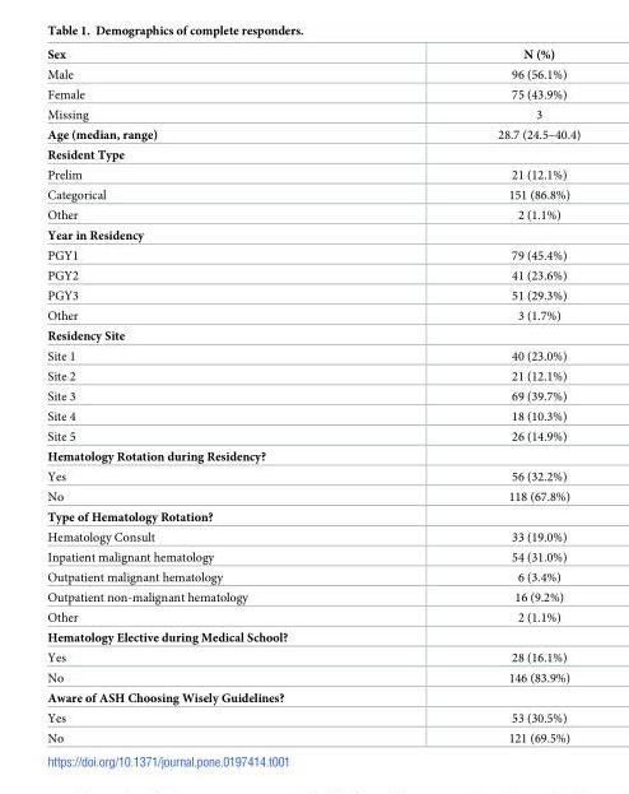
<table><thead><tr><td>Sex</td><td>N (%)</td></tr></thead><tbody><tr><td>Male</td><td>96 (56.1%)</td></tr><tr><td>Female</td><td>75 (43.9%)</td></tr><tr><td>Missing</td><td>3</td></tr><tr><td>Age (median, range)</td><td>28.7 (24.5–40.4)</td></tr><tr><td colspan="2">Resident Type</td></tr><tr><td>Prelim</td><td>21 (12.1%)</td></tr><tr><td>Categorical</td><td>151 (86.8%)</td></tr><tr><td>Other</td><td>2 (1.1%)</td></tr><tr><td colspan="2">Year in Residency</td></tr><tr><td>PGY1</td><td>79 (45.4%)</td></tr><tr><td>PGY2</td><td>41 (23.6%)</td></tr><tr><td>PGY3</td><td>51 (29.3%)</td></tr><tr><td>Other</td><td>3 (1.7%)</td></tr><tr><td colspan="2">Residency Site</td></tr><tr><td>Site 1</td><td>40 (23.0%)</td></tr><tr><td>Site 2</td><td>21 (12.1%)</td></tr><tr><td>Site 3</td><td>69 (39.7%)</td></tr><tr><td>Site 4</td><td>18 (10.3%)</td></tr><tr><td>Site 5</td><td>26 (14.9%)</td></tr><tr><td colspan="2">Hematology Rotation during Residency?</td></tr><tr><td>Yes</td><td>56 (32.2%)</td></tr><tr><td>No</td><td>118 (67.8%)</td></tr><tr><td colspan="2">Type of Hematology Rotation?</td></tr><tr><td>Hematology Consult</td><td>33 (19.0%)</td></tr><tr><td>Inpatient malignant hematology</td><td>54 (31.0%)</td></tr><tr><td>Outpatient malignant hematology</td><td>6 (3.4%)</td></tr><tr><td>Outpatient non-malignant hematology</td><td>16 (9.2%)</td></tr><tr><td>Other</td><td>2 (1.1%)</td></tr><tr><td colspan="2">Hematology Elective during Medical School?</td></tr><tr><td>Yes</td><td>28 (16.1%)</td></tr><tr><td>No</td><td>146 (83.9%)</td></tr><tr><td colspan="2">Aware of ASH Choosing Wisely Guidelines?</td></tr><tr><td>Yes</td><td>53 (30.5%)</td></tr><tr><td>No</td><td>121 (69.5%)</td></tr></tbody></table>